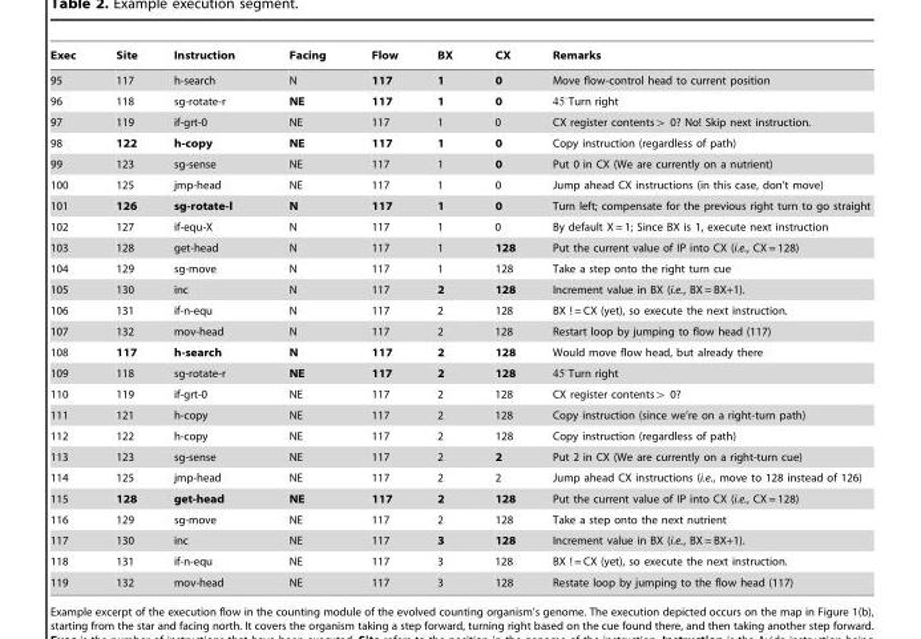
<table><thead><tr><td>Exec</td><td>Site</td><td>Instruction</td><td>Facing</td><td>Flow</td><td>BX</td><td>CX</td><td>Remarks</td></tr></thead><tbody><tr><td>95</td><td>117</td><td>h-search</td><td>N</td><td>117</td><td>1</td><td>0</td><td>Move flow-control head to current position</td></tr><tr><td>96</td><td>118</td><td>sg-rotate-r</td><td>NE</td><td>117</td><td>1</td><td>0</td><td>450Turn right</td></tr><tr><td>97</td><td>119</td><td>if-grt-0</td><td>NE</td><td>117</td><td>1</td><td>0</td><td>CX register contentsw 0? No! Skip next instruction.</td></tr><tr><td>98</td><td>122</td><td>h-copy</td><td>NE</td><td>117</td><td>1</td><td>0</td><td>Copy instruction (regardless of path)</td></tr><tr><td>99</td><td>123</td><td>sg-sense</td><td>NE</td><td>117</td><td>1</td><td>0</td><td>Put 0 in CX (We are currently on a nutrient)</td></tr><tr><td>100</td><td>125</td><td>jmp-head</td><td>NE</td><td>117</td><td>1</td><td>0</td><td>Jump ahead CX instructions (in this case, don’t move)</td></tr><tr><td>101</td><td>126</td><td>sg-rotate-l</td><td>N</td><td>117</td><td>1</td><td>0</td><td>Turn left; compensate for the previous right turn to go straight</td></tr><tr><td>102</td><td>127</td><td>if-equ-X</td><td>N</td><td>117</td><td>1</td><td>0</td><td>By default X = 1; Since BX is 1, execute next instruction</td></tr><tr><td>103</td><td>128</td><td>get-head</td><td>N</td><td>117</td><td>1</td><td>128</td><td>Put the current value of IP into CX (i.e., CX = 128)</td></tr><tr><td>104</td><td>129</td><td>sg-move</td><td>N</td><td>117</td><td>1</td><td>128</td><td>Take a step onto the right turn cue</td></tr><tr><td>105</td><td>130</td><td>inc</td><td>N</td><td>117</td><td>2</td><td>128</td><td>Increment value in BX (i.e., BX = BX+1).</td></tr><tr><td>106</td><td>131</td><td>if-n-equ</td><td>N</td><td>117</td><td>2</td><td>128</td><td>BX ! = CX (yet), so execute the next instruction.</td></tr><tr><td>107</td><td>132</td><td>mov-head</td><td>N</td><td>117</td><td>2</td><td>128</td><td>Restart loop by jumping to flow head (117)</td></tr><tr><td>108</td><td>117</td><td>h-search</td><td>N</td><td>117</td><td>2</td><td>128</td><td>Would move flow head, but already there</td></tr><tr><td>109</td><td>118</td><td>sg-rotate-r</td><td>NE</td><td>117</td><td>2</td><td>128</td><td>450Turn right</td></tr><tr><td>110</td><td>119</td><td>if-grt-0</td><td>NE</td><td>117</td><td>2</td><td>128</td><td>CX register contentsw 0?</td></tr><tr><td>111</td><td>121</td><td>h-copy</td><td>NE</td><td>117</td><td>2</td><td>128</td><td>Copy instruction (since we’re on a right-turn path)</td></tr><tr><td>112</td><td>122</td><td>h-copy</td><td>NE</td><td>117</td><td>2</td><td>128</td><td>Copy instruction (regardless of path)</td></tr><tr><td>113</td><td>123</td><td>sg-sense</td><td>NE</td><td>117</td><td>2</td><td>2</td><td>Put 2 in CX (We are currently on a right-turn cue)</td></tr><tr><td>114</td><td>125</td><td>jmp-head</td><td>NE</td><td>117</td><td>2</td><td>2</td><td>Jump ahead CX instructions (i.e., move to 128 instead of 126)</td></tr><tr><td>115</td><td>128</td><td>get-head</td><td>NE</td><td>117</td><td>2</td><td>128</td><td>Put the current value of IP into CX (i.e., CX = 128)</td></tr><tr><td>116</td><td>129</td><td>sg-move</td><td>NE</td><td>117</td><td>2</td><td>128</td><td>Take a step onto the next nutrient</td></tr><tr><td>117</td><td>130</td><td>inc</td><td>NE</td><td>117</td><td>3</td><td>128</td><td>Increment value in BX (i.e., BX = BX+1).</td></tr><tr><td>118</td><td>131</td><td>if-n-equ</td><td>NE</td><td>117</td><td>3</td><td>128</td><td>BX ! = CX (yet), so execute the next instruction.</td></tr><tr><td>119</td><td>132</td><td>mov-head</td><td>NE</td><td>117</td><td>3</td><td>128</td><td>Restate loop by jumping to the flow head (117)</td></tr></tbody></table>